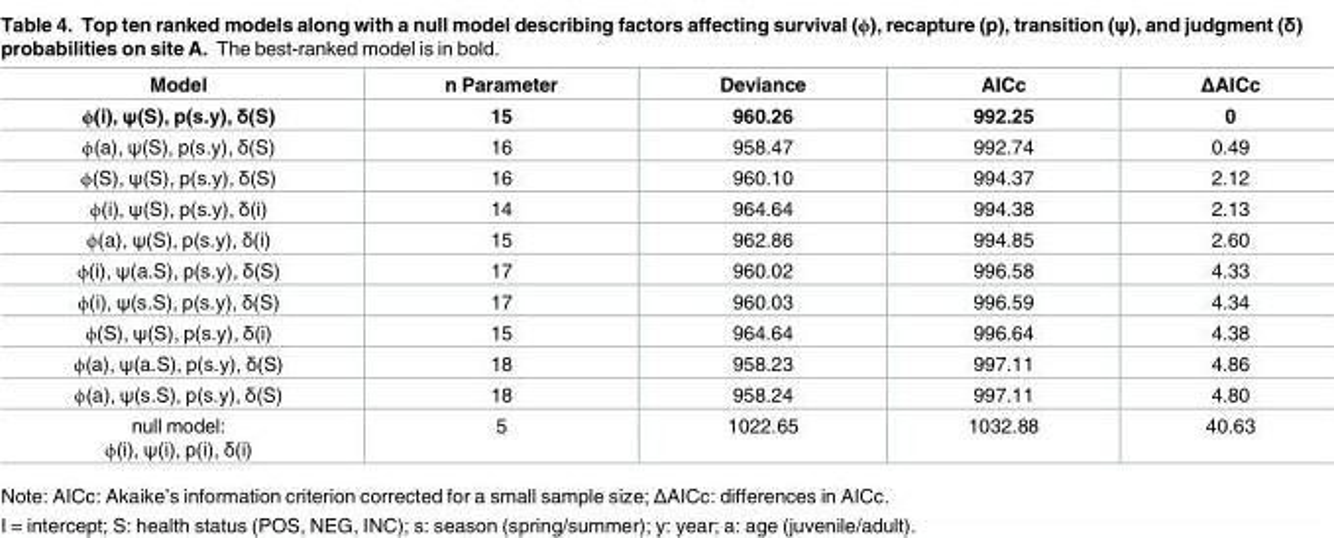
<table><thead><tr><td>Model</td><td>n Parameter</td><td>Deviance</td><td>AICc</td><td>ΔAICc</td></tr></thead><tbody><tr><td>ϕ(i), ψ(S), p(s.y), δ(S)</td><td>15</td><td>960.26</td><td>992.25</td><td>0</td></tr><tr><td>ϕ(a), ψ(S), p(s.y), δ(S)</td><td>16</td><td>958.47</td><td>992.74</td><td>0.49</td></tr><tr><td>ϕ(S), ψ(S), p(s.y), δ(S)</td><td>16</td><td>960.10</td><td>994.37</td><td>2.12</td></tr><tr><td>ϕ(i), ψ(S), p(s.y), δ(i)</td><td>14</td><td>964.64</td><td>994.38</td><td>2.13</td></tr><tr><td>ϕ(a), ψ(S), p(s.y), δ(i)</td><td>15</td><td>962.86</td><td>994.85</td><td>2.60</td></tr><tr><td>ϕ(i), ψ(a.S), p(s.y), δ(S)</td><td>17</td><td>960.02</td><td>996.58</td><td>4.33</td></tr><tr><td>ϕ(i), ψ(s.S), p(s.y), δ(S)</td><td>17</td><td>960.03</td><td>996.59</td><td>4.34</td></tr><tr><td>ϕ(S), ψ(S), p(s.y), δ(i)</td><td>15</td><td>964.64</td><td>996.64</td><td>4.38</td></tr><tr><td>ϕ(a), ψ(a.S), p(s.y), δ(S)</td><td>18</td><td>958.23</td><td>997.11</td><td>4.86</td></tr><tr><td>ϕ(a), ψ(s.S), p(s.y), δ(S)</td><td>18</td><td>958.24</td><td>997.11</td><td>4.80</td></tr><tr><td>null model: ϕ(i), ψ(i), p(i), δ(i)</td><td>5</td><td>1022.65</td><td>1032.88</td><td>40.63</td></tr></tbody></table>